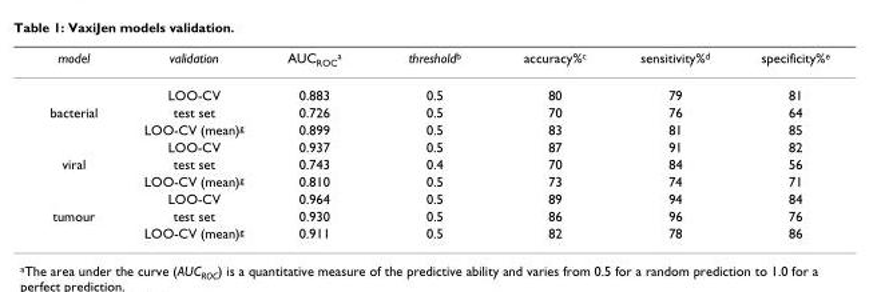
<table><thead><tr><td>model</td><td>validation</td><td>AUC<sub>ROC</sub><sup>a</sup></td><td>threshold<sup>b</sup></td><td>accuracy%<sup>c</sup></td><td>sensitivity%<sup>d</sup></td><td>specificity%<sup>e</sup></td></tr></thead><tbody><tr><td></td><td>LOO-CV</td><td>0.883</td><td>0.5</td><td>80</td><td>79</td><td>81</td></tr><tr><td rowspan="3">bacterial</td><td>test set</td><td>0.726</td><td>0.5</td><td>70</td><td>76</td><td>64</td></tr><tr><td>LOO-CV (mean)<sup>g</sup></td><td>0.899</td><td>0.5</td><td>83</td><td>81</td><td>85</td></tr><tr><td>LOO-CV</td><td>0.937</td><td>0.5</td><td>87</td><td>91</td><td>82</td></tr><tr><td rowspan="3">viral</td><td>test set</td><td>0.743</td><td>0.4</td><td>70</td><td>84</td><td>56</td></tr><tr><td>LOO-CV (mean)<sup>g</sup></td><td>0.810</td><td>0.5</td><td>73</td><td>74</td><td>71</td></tr><tr><td>LOO-CV</td><td>0.964</td><td>0.5</td><td>89</td><td>94</td><td>84</td></tr><tr><td rowspan="2">tumour</td><td>test set</td><td>0.930</td><td>0.5</td><td>86</td><td>96</td><td>76</td></tr><tr><td>LOO-CV (mean)<sup>g</sup></td><td>0.911</td><td>0.5</td><td>82</td><td>78</td><td>86</td></tr></tbody></table>